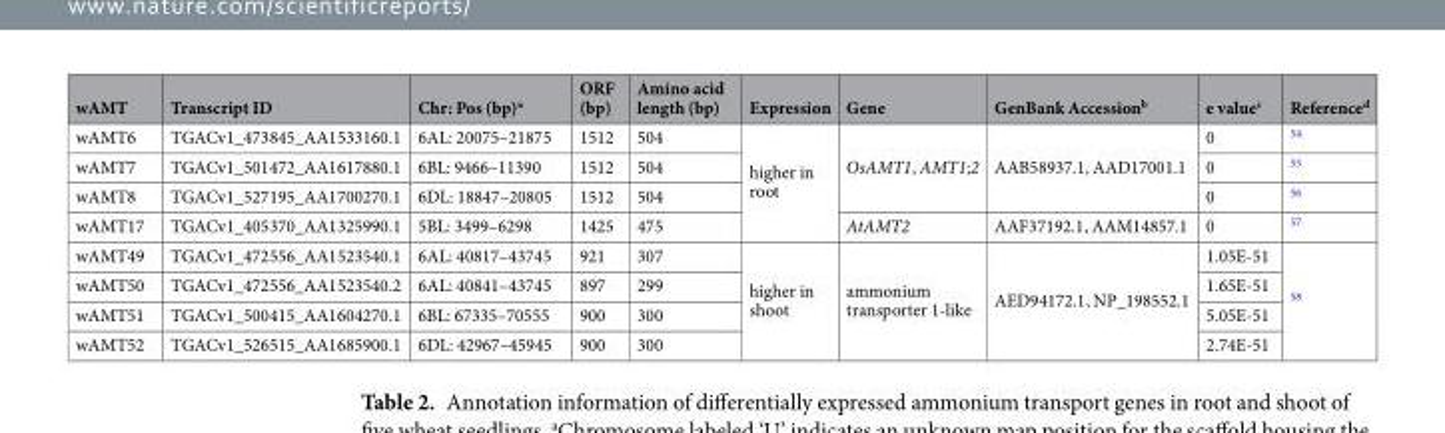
<table><thead><tr><td>wAMT</td><td>Transcript ID</td><td>Chr: Pos (bp)<sup>a</sup></td><td>ORF (bp)</td><td>Amino acid length (bp)</td><td>Expression</td><td>Gene</td><td>GenBank Accession<sup>b</sup></td><td>e value<sup>c</sup></td><td>Reference<sup>d</sup></td></tr></thead><tbody><tr><td>wAMT6</td><td>TGACv1_473845_AA1533160.1</td><td>6AL: 20075–21875</td><td>1512</td><td>504</td><td rowspan="4">higher in root</td><td rowspan="3">OsAMT1, AMT1;2</td><td rowspan="3">AAB58937.1, AAD17001.1</td><td>0</td><td><sup>54</sup></td></tr><tr><td>wAMT7</td><td>TGACv1_501472_AA1617880.1</td><td>6BL: 9466–11390</td><td>1512</td><td>504</td><td>0</td><td><sup>55</sup></td></tr><tr><td>wAMT8</td><td>TGACv1_527195_AA1700270.1</td><td>6DL: 18847–20805</td><td>1512</td><td>504</td><td>0</td><td><sup>56</sup></td></tr><tr><td>wAMT17</td><td>TGACv1_405370_AA1325990.1</td><td>5BL: 3499–6298</td><td>1425</td><td>475</td><td>AtAMT2</td><td>AAF37192.1, AAM14857.1</td><td>0</td><td><sup>57</sup></td></tr><tr><td>wAMT49</td><td>TGACv1_472556_AA1523540.1</td><td>6AL: 40817–43745</td><td>921</td><td>307</td><td rowspan="4">higher in shoot</td><td rowspan="4">ammonium transporter 1-like</td><td rowspan="4">AED94172.1, NP_198552.1</td><td>1.05E-51</td><td rowspan="4"><sup>58</sup></td></tr><tr><td>wAMT50</td><td>TGACv1_472556_AA1523540.2</td><td>6AL: 40841–43745</td><td>897</td><td>299</td><td>1.65E-51</td></tr><tr><td>wAMT51</td><td>TGACv1_500415_AA1604270.1</td><td>6BL: 67335–70555</td><td>900</td><td>300</td><td>5.05E-51</td></tr><tr><td>wAMT52</td><td>TGACv1_526515_AA1685900.1</td><td>6DL: 42967–45945</td><td>900</td><td>300</td><td>2.74E-51</td></tr></tbody></table>